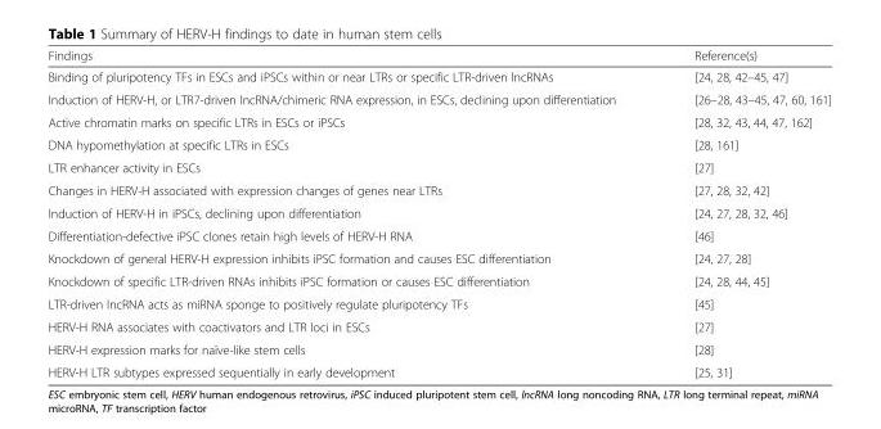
<table><thead><tr><td>Findings</td><td>Reference(s)</td></tr></thead><tbody><tr><td>Binding of pluripotency TFs in ESCs and iPSCs within or near LTRs or specific LTR-driven lncRNAs</td><td>[24, 28, 42–45, 47]</td></tr><tr><td>Induction of HERV-H, or LTR7-driven lncRNA/chimeric RNA expression, in ESCs, declining upon differentiation</td><td>[26–28, 43–45, 47, 60, 161]</td></tr><tr><td>Active chromatin marks on specific LTRs in ESCs or iPSCs</td><td>[28, 32, 43, 44, 47, 162]</td></tr><tr><td>DNA hypomethylation at specific LTRs in ESCs</td><td>[28, 161]</td></tr><tr><td>LTR enhancer activity in ESCs</td><td>[27]</td></tr><tr><td>Changes in HERV-H associated with expression changes of genes near LTRs</td><td>[27, 28, 32, 42]</td></tr><tr><td>Induction of HERV-H in iPSCs, declining upon differentiation</td><td>[24, 27, 28, 32, 46]</td></tr><tr><td>Differentiation-defective iPSC clones retain high levels of HERV-H RNA</td><td>[46]</td></tr><tr><td>Knockdown of general HERV-H expression inhibits iPSC formation and causes ESC differentiation</td><td>[24, 27, 28]</td></tr><tr><td>Knockdown of specific LTR-driven RNAs inhibits iPSC formation or causes ESC differentiation</td><td>[24, 28, 44, 45]</td></tr><tr><td>LTR-driven lncRNA acts as miRNA sponge to positively regulate pluripotency TFs</td><td>[45]</td></tr><tr><td>HERV-H RNA associates with coactivators and LTR loci in ESCs</td><td>[27]</td></tr><tr><td>HERV-H expression marks for naïve-like stem cells</td><td>[28]</td></tr><tr><td>HERV-H LTR subtypes expressed sequentially in early development</td><td>[25, 31]</td></tr></tbody></table>